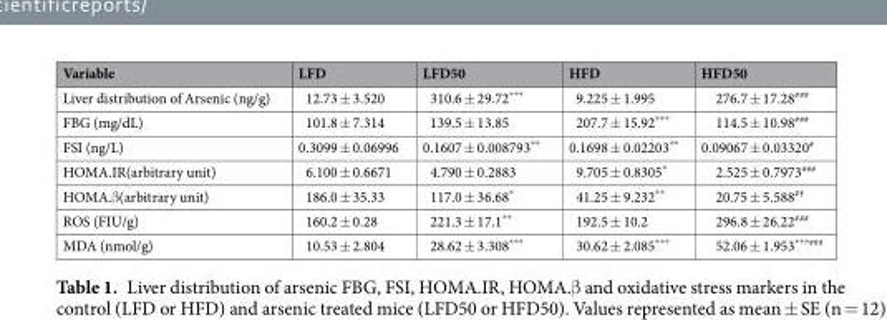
<table><thead><tr><td>Variable</td><td>LFD</td><td>LFD50</td><td>HFD</td><td>HFD50</td></tr></thead><tbody><tr><td>Liver distribution of Arsenic (ng/g)</td><td>12.73 ± 3.520</td><td>310.6 ± 29.72***</td><td>9.225 ± 1.995</td><td>276.7 ± 17.28<sup>###</sup></td></tr><tr><td>FBG (mg/dL)</td><td>101.8 ± 7.314</td><td>139.5 ± 13.85</td><td>207.7 ± 15.92***</td><td>114.5 ± 10.98<sup>###</sup></td></tr><tr><td>FSI (ng/L)</td><td>0.3099 ± 0.06996</td><td>0.1607 ± 0.008793**</td><td>0.1698 ± 0.02203**</td><td>0.09067 ± 0.03320<sup>#</sup></td></tr><tr><td>HOMA.IR(arbitrary unit)</td><td>6.100 ± 0.6671</td><td>4.790 ± 0.2883</td><td>9.705 ± 0.8305*</td><td>2.525 ± 0.7973<sup>###</sup></td></tr><tr><td>HOMA.β(arbitrary unit)</td><td>186.0 ± 35.33</td><td>117.0 ± 36.68*</td><td>41.25 ± 9.232**</td><td>20.75 ± 5.588<sup>#†</sup></td></tr><tr><td>ROS (FIU/g)</td><td>160.2 ± 0.28</td><td>221.3 ± 17.1**</td><td>192.5 ± 10.2</td><td>296.8 ± 26.22<sup>###</sup></td></tr><tr><td>MDA (nmol/g)</td><td>10.53 ± 2.804</td><td>28.62 ± 3.308***</td><td>30.62 ± 2.085***</td><td>52.06 ± 1.953<sup>***###</sup></td></tr></tbody></table>